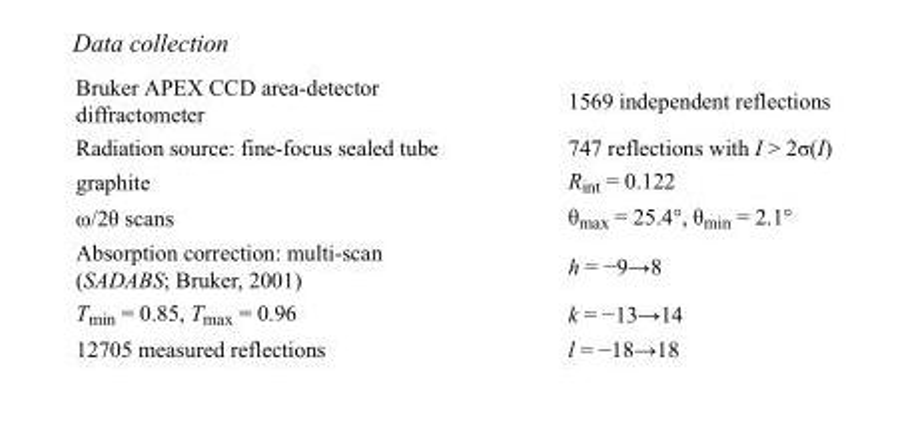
<table><tbody><tr><td>Bruker APEX CCD area-detector diffractometer</td><td>1569 independent reflections</td></tr><tr><td>Radiation source: fine-focus sealed tube</td><td>747 reflections with I &gt; 2σ(I)</td></tr><tr><td>graphite</td><td>R<sub>int</sub> = 0.122</td></tr><tr><td>ω/2θ scans</td><td>θ<sub>max</sub> = 25.4°, θ<sub>min</sub> = 2.1°</td></tr><tr><td>Absorption correction: multi-scan (SADABS; Bruker, 2001)</td><td>h = −9→8</td></tr><tr><td>T<sub>min</sub> = 0.85, T<sub>max</sub> = 0.96</td><td>k = −13→14</td></tr><tr><td>12705 measured reflections</td><td>l = −18→18</td></tr></tbody></table>